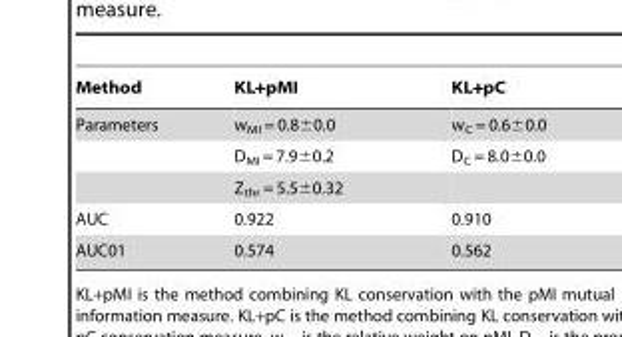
<table><thead><tr><td>Method</td><td>KL+pMI</td><td>KL+pC</td></tr></thead><tbody><tr><td rowspan="3">Parameters</td><td>w<sub>MI</sub> = 0.8±0.0</td><td>w<sub>C</sub> = 0.6±0.0</td></tr><tr><td>D<sub>MI</sub> = 7.9±0.2</td><td>D<sub>C</sub> = 8.0±0.0</td></tr><tr><td>Z<sub>thr</sub> = 5.5±0.32</td><td></td></tr><tr><td>AUC</td><td>0.922</td><td>0.910</td></tr><tr><td>AUC01</td><td>0.574</td><td>0.562</td></tr></tbody></table>